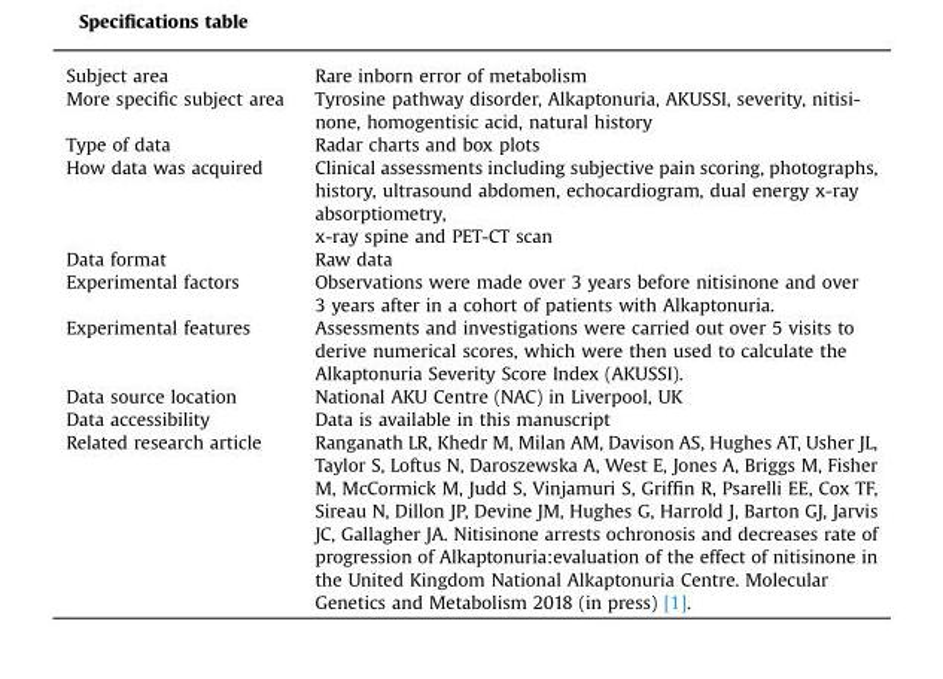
<table><tbody><tr><td>Subject area</td><td>Rare inborn error of metabolism</td></tr><tr><td>More specific subject area</td><td>Tyrosine pathway disorder, Alkaptonuria, AKUSSI, severity, nitisi- none, homogentisic acid, natural history</td></tr><tr><td>Type of data</td><td>Radar charts and box plots</td></tr><tr><td>How data was acquired</td><td>Clinical assessments including subjective pain scoring, photographs, history, ultrasound abdomen, echocardiogram, dual energy x-ray absorptiometry, x-ray spine and PET-CT scan</td></tr><tr><td>Data format</td><td>Raw data</td></tr><tr><td>Experimental factors</td><td>Observations were made over 3 years before nitisinone and over 3 years after in a cohort of patients with Alkaptonuria.</td></tr><tr><td>Experimental features</td><td>Assessments and investigations were carried out over 5 visits to derive numerical scores, which were then used to calculate the Alkaptonuria Severity Score Index (AKUSSI).</td></tr><tr><td>Data source location</td><td>National AKU Centre (NAC) in Liverpool, UK</td></tr><tr><td>Data accessibility</td><td>Data is available in this manuscript</td></tr><tr><td>Related research article</td><td>Ranganath LR, Khedr M, Milan AM, Davison AS, Hughes AT, Usher JL, Taylor S, Loftus N, Daroszewska A, West E, Jones A, Briggs M, Fisher M, McCormick M, Judd S, Vinjamuri S, Griffin R, Psarelli EE, Cox TF, Sireau N, Dillon JP, Devine JM, Hughes G, Harrold J, Barton GJ, Jarvis JC, Gallagher JA. Nitisinone arrests ochronosis and decreases rate of progression of Alkaptonuria:evaluation of the effect of nitisinone in the United Kingdom National Alkaptonuria Centre. Molecular Genetics and Metabolism 2018 (in press) [1].</td></tr></tbody></table>